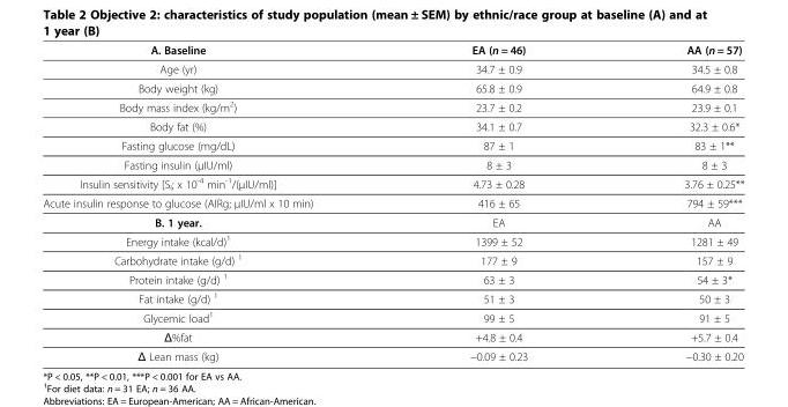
<table><thead><tr><td>A. Baseline</td><td>EA (n = 46)</td><td>AA (n = 57)</td></tr></thead><tbody><tr><td>Age (yr)</td><td>34.7 ± 0.9</td><td>34.5 ± 0.8</td></tr><tr><td>Body weight (kg)</td><td>65.8 ± 0.9</td><td>64.9 ± 0.8</td></tr><tr><td>Body mass index (kg/m<sup>2</sup>)</td><td>23.7 ± 0.2</td><td>23.9 ± 0.1</td></tr><tr><td>Body fat (%)</td><td>34.1 ± 0.7</td><td>32.3 ± 0.6*</td></tr><tr><td>Fasting glucose (mg/dL)</td><td>87 ± 1</td><td>83 ± 1**</td></tr><tr><td>Fasting insulin (μIU/ml)</td><td>8 ± 3</td><td>8 ± 3</td></tr><tr><td>Insulin sensitivity [S<sub>I</sub>; x 10<sup>-4</sup> min<sup>-1</sup>/(μIU/ml)]</td><td>4.73 ± 0.28</td><td>3.76 ± 0.25**</td></tr><tr><td>Acute insulin response to glucose (AIRg; μIU/ml x 10 min)</td><td>416 ± 65</td><td>794 ± 59***</td></tr><tr><td>B. 1 year.</td><td>EA</td><td>AA</td></tr><tr><td>Energy intake (kcal/d)<sup>1</sup></td><td>1399 ± 52</td><td>1281 ± 49</td></tr><tr><td>Carbohydrate intake (g/d) <sup>1</sup></td><td>177 ± 9</td><td>157 ± 9</td></tr><tr><td>Protein intake (g/d) <sup>1</sup></td><td>63 ± 3</td><td>54 ± 3*</td></tr><tr><td>Fat intake (g/d) <sup>1</sup></td><td>51 ± 3</td><td>50 ± 3</td></tr><tr><td>Glycemic load<sup>1</sup></td><td>99 ± 5</td><td>91 ± 5</td></tr><tr><td>Δ%fat</td><td>+4.8 ± 0.4</td><td>+5.7 ± 0.4</td></tr><tr><td>Δ Lean mass (kg)</td><td>−0.09 ± 0.23</td><td>−0.30 ± 0.20</td></tr></tbody></table>